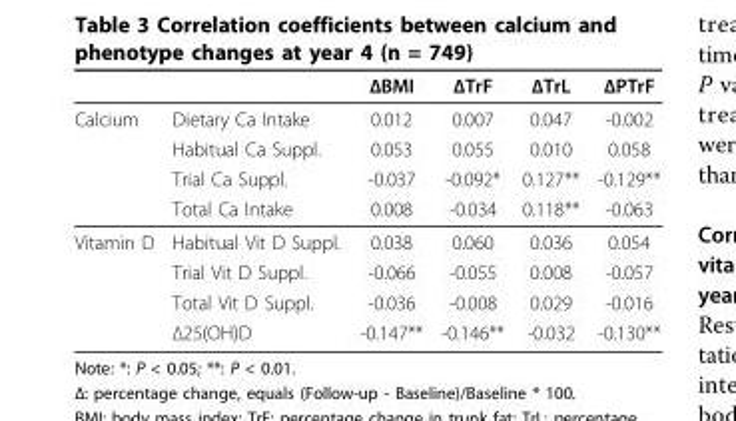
<table><thead><tr><td></td><td></td><td>ΔBMI</td><td>ΔTrF</td><td>ΔTrL</td><td>ΔPTrF</td></tr></thead><tbody><tr><td rowspan="4">Calcium</td><td>Dietary Ca Intake</td><td>0.012</td><td>0.007</td><td>0.047</td><td>-0.002</td></tr><tr><td>Habitual Ca Suppl.</td><td>0.053</td><td>0.055</td><td>0.010</td><td>0.058</td></tr><tr><td>Trial Ca Suppl.</td><td>-0.037</td><td>-0.092*</td><td>0.127**</td><td>-0.129**</td></tr><tr><td>Total Ca Intake</td><td>0.008</td><td>-0.034</td><td>0.118**</td><td>-0.063</td></tr><tr><td rowspan="4">Vitamin D</td><td>Habitual Vit D Suppl.</td><td>0.038</td><td>0.060</td><td>0.036</td><td>0.054</td></tr><tr><td>Trial Vit D Suppl.</td><td>-0.066</td><td>-0.055</td><td>0.008</td><td>-0.057</td></tr><tr><td>Total Vit D Suppl.</td><td>-0.036</td><td>-0.008</td><td>0.029</td><td>-0.016</td></tr><tr><td>Δ25(OH)D</td><td>-0.147**</td><td>-0.146**</td><td>-0.032</td><td>-0.130**</td></tr></tbody></table>